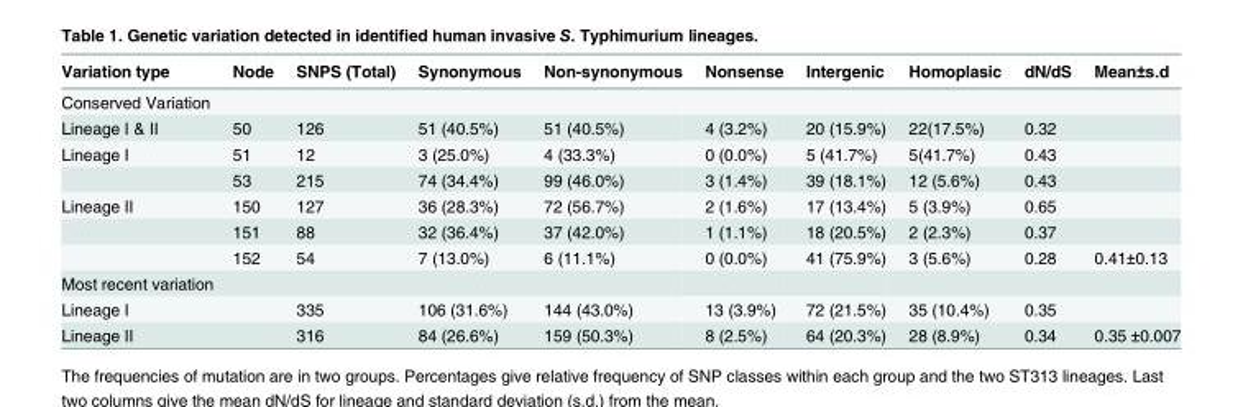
<table><thead><tr><td>Variation type</td><td>Node</td><td>SNPS (Total)</td><td>Synonymous</td><td>Non-synonymous</td><td>Nonsense</td><td>Intergenic</td><td>Homoplasic</td><td>dN/dS</td><td>Mean±s.d</td></tr></thead><tbody><tr><td colspan="10">Conserved Variation</td></tr><tr><td>Lineage I &amp; II</td><td>50</td><td>126</td><td>51 (40.5%)</td><td>51 (40.5%)</td><td>4 (3.2%)</td><td>20 (15.9%)</td><td>22(17.5%)</td><td>0.32</td><td></td></tr><tr><td rowspan="2">Lineage I</td><td>51</td><td>12</td><td>3 (25.0%)</td><td>4 (33.3%)</td><td>0 (0.0%)</td><td>5 (41.7%)</td><td>5(41.7%)</td><td>0.43</td><td></td></tr><tr><td>53</td><td>215</td><td>74 (34.4%)</td><td>99 (46.0%)</td><td>3 (1.4%)</td><td>39 (18.1%)</td><td>12 (5.6%)</td><td>0.43</td><td></td></tr><tr><td rowspan="3">Lineage II</td><td>150</td><td>127</td><td>36 (28.3%)</td><td>72 (56.7%)</td><td>2 (1.6%)</td><td>17 (13.4%)</td><td>5 (3.9%)</td><td>0.65</td><td></td></tr><tr><td>151</td><td>88</td><td>32 (36.4%)</td><td>37 (42.0%)</td><td>1 (1.1%)</td><td>18 (20.5%)</td><td>2 (2.3%)</td><td>0.37</td><td></td></tr><tr><td>152</td><td>54</td><td>7 (13.0%)</td><td>6 (11.1%)</td><td>0 (0.0%)</td><td>41 (75.9%)</td><td>3 (5.6%)</td><td>0.28</td><td>0.41±0.13</td></tr><tr><td colspan="10">Most recent variation</td></tr><tr><td>Lineage I</td><td></td><td>335</td><td>106 (31.6%)</td><td>144 (43.0%)</td><td>13 (3.9%)</td><td>72 (21.5%)</td><td>35 (10.4%)</td><td>0.35</td><td></td></tr><tr><td>Lineage II</td><td></td><td>316</td><td>84 (26.6%)</td><td>159 (50.3%)</td><td>8 (2.5%)</td><td>64 (20.3%)</td><td>28 (8.9%)</td><td>0.34</td><td>0.35 ±0.007</td></tr></tbody></table>